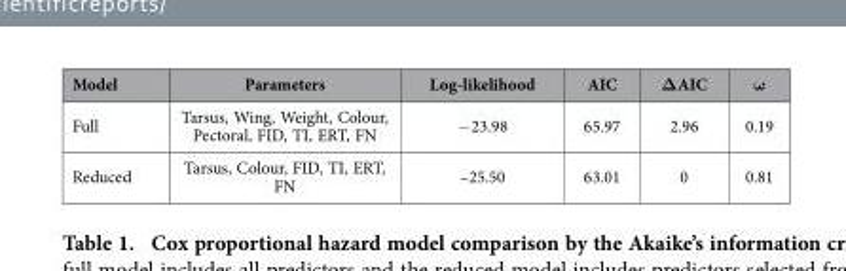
<table><thead><tr><td>Model</td><td>Parameters</td><td>Log-likelihood</td><td>AIC</td><td>ΔAIC</td><td>ω</td></tr></thead><tbody><tr><td>Full</td><td>Tarsus, Wing, Weight, Colour, Pectoral, FID, TI, ERT, FN</td><td>− 23.98</td><td>65.97</td><td>2.96</td><td>0.19</td></tr><tr><td>Reduced</td><td>Tarsus, Colour, FID, TI, ERT, FN</td><td>–25.50</td><td>63.01</td><td>0</td><td>0.81</td></tr></tbody></table>